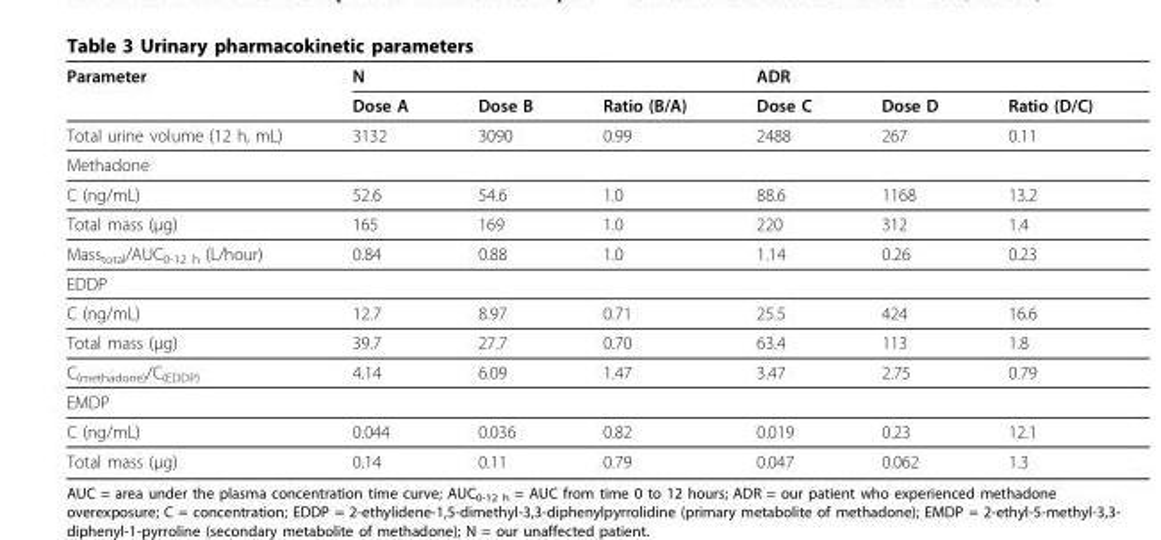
<table><thead><tr><td rowspan="2">Parameter</td><td colspan="3">N</td><td colspan="3">ADR</td></tr><tr><td>Dose A</td><td>Dose B</td><td>Ratio (B/A)</td><td>Dose C</td><td>Dose D</td><td>Ratio (D/C)</td></tr></thead><tbody><tr><td>Total urine volume (12 h, mL)</td><td>3132</td><td>3090</td><td>0.99</td><td>2488</td><td>267</td><td>0.11</td></tr><tr><td colspan="7">Methadone</td></tr><tr><td>C (ng/mL)</td><td>52.6</td><td>54.6</td><td>1.0</td><td>88.6</td><td>1168</td><td>13.2</td></tr><tr><td>Total mass (μg)</td><td>165</td><td>169</td><td>1.0</td><td>220</td><td>312</td><td>1.4</td></tr><tr><td>Mass<sub>total</sub>/AUC<sub>0-12 h</sub> (L/hour)</td><td>0.84</td><td>0.88</td><td>1.0</td><td>1.14</td><td>0.26</td><td>0.23</td></tr><tr><td colspan="7">EDDP</td></tr><tr><td>C (ng/mL)</td><td>12.7</td><td>8.97</td><td>0.71</td><td>25.5</td><td>424</td><td>16.6</td></tr><tr><td>Total mass (μg)</td><td>39.7</td><td>27.7</td><td>0.70</td><td>63.4</td><td>113</td><td>1.8</td></tr><tr><td>C<sub>(methadone)</sub>/C<sub>(EDDP)</sub></td><td>4.14</td><td>6.09</td><td>1.47</td><td>3.47</td><td>2.75</td><td>0.79</td></tr><tr><td colspan="7">EMDP</td></tr><tr><td>C (ng/mL)</td><td>0.044</td><td>0.036</td><td>0.82</td><td>0.019</td><td>0.23</td><td>12.1</td></tr><tr><td>Total mass (μg)</td><td>0.14</td><td>0.11</td><td>0.79</td><td>0.047</td><td>0.062</td><td>1.3</td></tr></tbody></table>